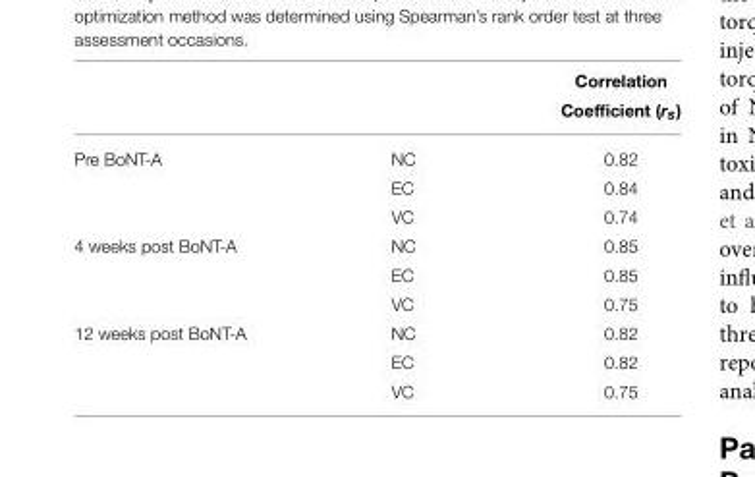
<table><thead><tr><td rowspan="2"></td><td rowspan="2"></td><td rowspan="2">Correlation Coefficient (rs)</td></tr><tr></tr></thead><tbody><tr><td rowspan="3">Pre BoNT-A</td><td>NC</td><td>0.82</td></tr><tr><td>EC</td><td>0.84</td></tr><tr><td>VC</td><td>0.74</td></tr><tr><td rowspan="3">4 weeks post BoNT-A</td><td>NC</td><td>0.85</td></tr><tr><td>EC</td><td>0.85</td></tr><tr><td>VC</td><td>0.75</td></tr><tr><td rowspan="3">12 weeks post BoNT-A</td><td>NC</td><td>0.82</td></tr><tr><td>EC</td><td>0.82</td></tr><tr><td>VC</td><td>0.75</td></tr></tbody></table>